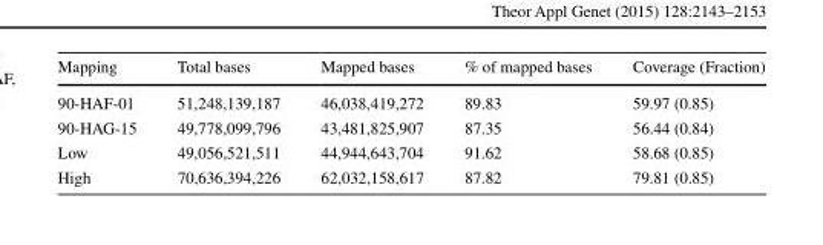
<table><thead><tr><td>Mapping</td><td>Total bases</td><td>Mapped bases</td><td>% of mapped bases</td><td>Coverage (Fraction)</td></tr></thead><tbody><tr><td>90-HAF-01</td><td>51,248,139,187</td><td>46,038,419,272</td><td>89.83</td><td>59.97 (0.85)</td></tr><tr><td>90-HAG-15</td><td>49,778,099,796</td><td>43,481,825,907</td><td>87.35</td><td>56.44 (0.84)</td></tr><tr><td>Low</td><td>49,056,521,511</td><td>44,944,643,704</td><td>91.62</td><td>58.68 (0.85)</td></tr><tr><td>High</td><td>70,636,394,226</td><td>62,032,158,617</td><td>87.82</td><td>79.81 (0.85)</td></tr></tbody></table>